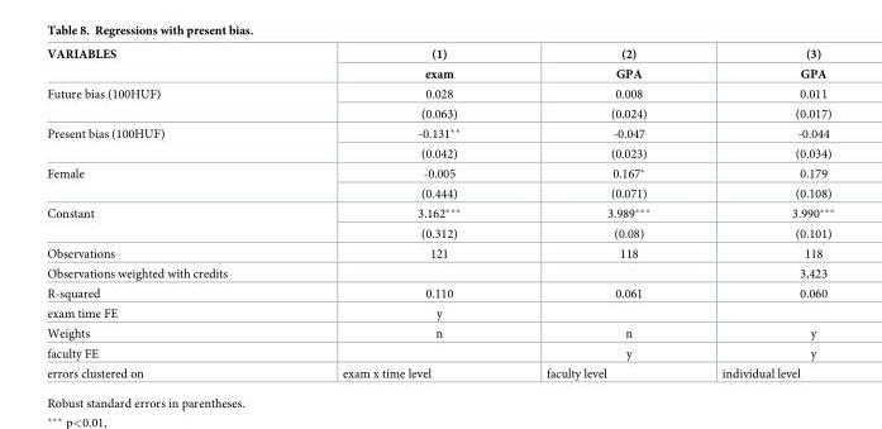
<table><thead><tr><td rowspan="2">VARIABLES</td><td rowspan="2">(1) exam</td><td rowspan="2">(2) GPA</td><td rowspan="2">(3) GPA</td></tr><tr></tr></thead><tbody><tr><td rowspan="2">Future bias (100HUF)</td><td>0.028</td><td>0.008</td><td>0.011</td></tr><tr><td>(0.063)</td><td>(0.024)</td><td>(0.017)</td></tr><tr><td rowspan="2">Present bias (100HUF)</td><td>-0.131**</td><td>-0.047</td><td>-0.044</td></tr><tr><td>(0.042)</td><td>(0.023)</td><td>(0.034)</td></tr><tr><td rowspan="2">Female</td><td>-0.005</td><td>0.167*</td><td>0.179</td></tr><tr><td>(0.444)</td><td>(0.071)</td><td>(0.108)</td></tr><tr><td rowspan="2">Constant</td><td>3.162***</td><td>3.989***</td><td>3.990***</td></tr><tr><td>(0.312)</td><td>(0.08)</td><td>(0.101)</td></tr><tr><td>Observations</td><td>121</td><td>118</td><td>118</td></tr><tr><td>Observations weighted with credits</td><td></td><td></td><td>3,423</td></tr><tr><td>R-squared</td><td>0.110</td><td>0.061</td><td>0.060</td></tr><tr><td>exam time FE</td><td>y</td><td></td><td></td></tr><tr><td>Weights</td><td>n</td><td>n</td><td>y</td></tr><tr><td>faculty FE</td><td></td><td>y</td><td>y</td></tr><tr><td>errors clustered on</td><td>exam x time level</td><td>faculty level</td><td>individual level</td></tr></tbody></table>